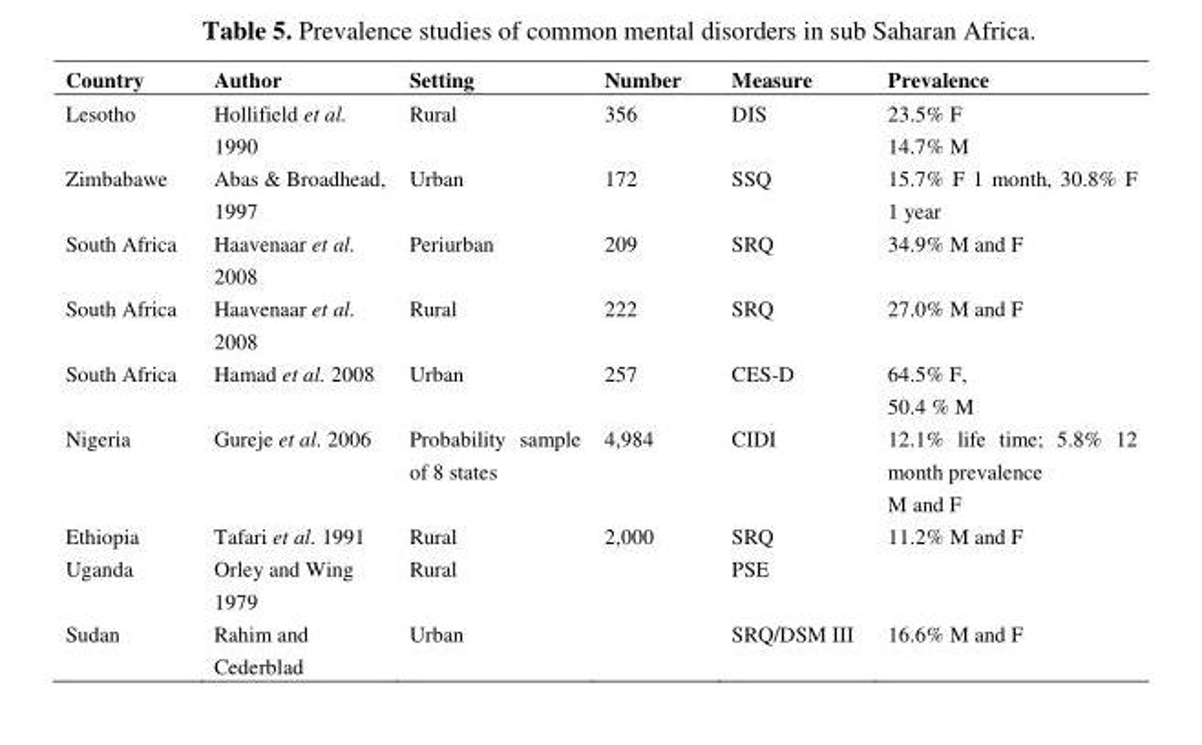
<table><thead><tr><td>Country</td><td>Author</td><td>Setting</td><td>Number</td><td>Measure</td><td>Prevalence</td></tr></thead><tbody><tr><td>Lesotho</td><td>Hollifield et al. 1990</td><td>Rural</td><td>356</td><td>DIS</td><td>23.5% F 14.7% M</td></tr><tr><td>Zimbabawe</td><td>Abas &amp; Broadhead, 1997</td><td>Urban</td><td>172</td><td>SSQ</td><td>15.7% F 1 month, 30.8% F 1 year</td></tr><tr><td>South Africa</td><td>Haavenaar et al. 2008</td><td>Periurban</td><td>209</td><td>SRQ</td><td>34.9% M and F</td></tr><tr><td>South Africa</td><td>Haavenaar et al. 2008</td><td>Rural</td><td>222</td><td>SRQ</td><td>27.0% M and F</td></tr><tr><td>South Africa</td><td>Hamad et al. 2008</td><td>Urban</td><td>257</td><td>CES-D</td><td>64.5% F, 50.4 % M</td></tr><tr><td>Nigeria</td><td>Gureje et al. 2006</td><td>Probability sample of 8 states</td><td>4,984</td><td>CIDI</td><td>12.1% life time; 5.8% 12 month prevalence M and F</td></tr><tr><td>Ethiopia</td><td>Tafari et al. 1991</td><td>Rural</td><td>2,000</td><td>SRQ</td><td>11.2% M and F</td></tr><tr><td>Uganda</td><td>Orley and Wing 1979</td><td>Rural</td><td></td><td>PSE</td><td></td></tr><tr><td>Sudan</td><td>Rahim and Cederblad</td><td>Urban</td><td></td><td>SRQ/DSM III</td><td>16.6% M and F</td></tr></tbody></table>